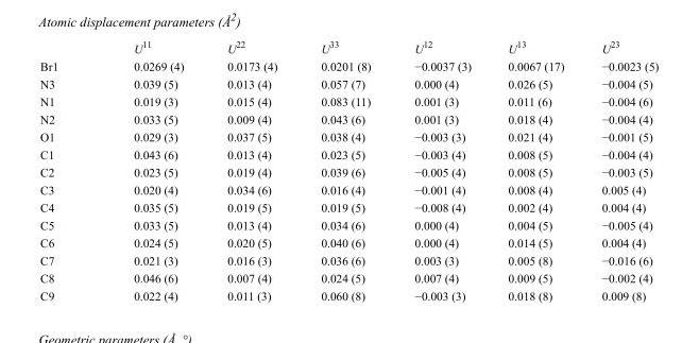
<table><thead><tr><td></td><td>U<sup>11</sup></td><td>U<sup>22</sup></td><td>U<sup>33</sup></td><td>U<sup>12</sup></td><td>U<sup>13</sup></td><td>U<sup>23</sup></td></tr></thead><tbody><tr><td>Br1</td><td>0.0269 (4)</td><td>0.0173 (4)</td><td>0.0201 (8)</td><td>−0.0037 (3)</td><td>0.0067 (17)</td><td>−0.0023 (5)</td></tr><tr><td>N3</td><td>0.039 (5)</td><td>0.013 (4)</td><td>0.057 (7)</td><td>0.000 (4)</td><td>0.026 (5)</td><td>−0.004 (5)</td></tr><tr><td>N1</td><td>0.019 (3)</td><td>0.015 (4)</td><td>0.083 (11)</td><td>0.001 (3)</td><td>0.011 (6)</td><td>−0.004 (6)</td></tr><tr><td>N2</td><td>0.033 (5)</td><td>0.009 (4)</td><td>0.043 (6)</td><td>0.001 (3)</td><td>0.018 (4)</td><td>−0.004 (4)</td></tr><tr><td>O1</td><td>0.029 (3)</td><td>0.037 (5)</td><td>0.038 (4)</td><td>−0.003 (3)</td><td>0.021 (4)</td><td>−0.001 (5)</td></tr><tr><td>C1</td><td>0.043 (6)</td><td>0.013 (4)</td><td>0.023 (5)</td><td>−0.003 (4)</td><td>0.008 (5)</td><td>−0.004 (4)</td></tr><tr><td>C2</td><td>0.023 (5)</td><td>0.019 (4)</td><td>0.039 (6)</td><td>−0.005 (4)</td><td>0.008 (5)</td><td>−0.003 (5)</td></tr><tr><td>C3</td><td>0.020 (4)</td><td>0.034 (6)</td><td>0.016 (4)</td><td>−0.001 (4)</td><td>0.008 (4)</td><td>0.005 (4)</td></tr><tr><td>C4</td><td>0.035 (5)</td><td>0.019 (5)</td><td>0.019 (5)</td><td>−0.008 (4)</td><td>0.002 (4)</td><td>0.004 (4)</td></tr><tr><td>C5</td><td>0.033 (5)</td><td>0.013 (4)</td><td>0.034 (6)</td><td>0.000 (4)</td><td>0.004 (5)</td><td>−0.005 (4)</td></tr><tr><td>C6</td><td>0.024 (5)</td><td>0.020 (5)</td><td>0.040 (6)</td><td>0.000 (4)</td><td>0.014 (5)</td><td>0.004 (4)</td></tr><tr><td>C7</td><td>0.021 (3)</td><td>0.016 (3)</td><td>0.036 (6)</td><td>0.003 (3)</td><td>0.005 (8)</td><td>−0.016 (6)</td></tr><tr><td>C8</td><td>0.046 (6)</td><td>0.007 (4)</td><td>0.024 (5)</td><td>0.007 (4)</td><td>0.009 (5)</td><td>−0.002 (4)</td></tr><tr><td>C9</td><td>0.022 (4)</td><td>0.011 (3)</td><td>0.060 (8)</td><td>−0.003 (3)</td><td>0.018 (8)</td><td>0.009 (8)</td></tr></tbody></table>